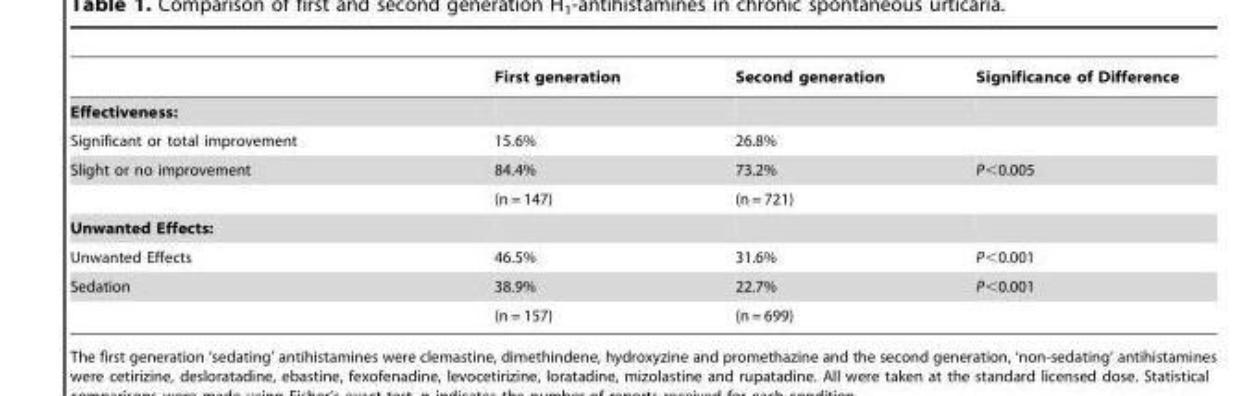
<table><thead><tr><td></td><td>First generation</td><td>Second generation</td><td>Significance of Difference</td></tr></thead><tbody><tr><td colspan="4">Effectiveness:</td></tr><tr><td>Significant or total improvement</td><td>15.6%</td><td>26.8%</td><td></td></tr><tr><td rowspan="2">Slight or no improvement</td><td>84.4%</td><td>73.2%</td><td>P&lt;0.005</td></tr><tr><td>(n = 147)</td><td>(n = 721)</td><td></td></tr><tr><td colspan="4">Unwanted Effects:</td></tr><tr><td>Unwanted Effects</td><td>46.5%</td><td>31.6%</td><td>P&lt;0.001</td></tr><tr><td rowspan="2">Sedation</td><td>38.9%</td><td>22.7%</td><td>P&lt;0.001</td></tr><tr><td>(n = 157)</td><td>(n = 699)</td><td></td></tr></tbody></table>